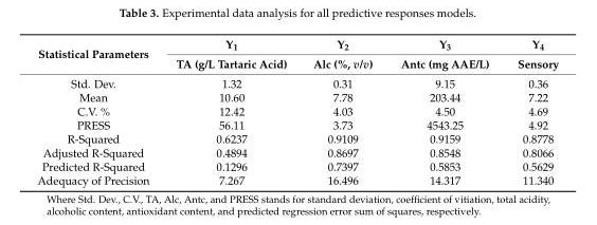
<table><thead><tr><td rowspan="2">Statistical Parameters</td><td rowspan="2">Y<sub>1</sub> TA (g/L Tartaric Acid)</td><td rowspan="2">Y<sub>2</sub> Alc (%, v/v)</td><td rowspan="2">Y<sub>3</sub> Antc (mg AAE/L)</td><td rowspan="2">Y<sub>4</sub> Sensory</td></tr><tr></tr></thead><tbody><tr><td>Std. Dev.</td><td>1.32</td><td>0.31</td><td>9.15</td><td>0.36</td></tr><tr><td>Mean</td><td>10.60</td><td>7.78</td><td>203.44</td><td>7.22</td></tr><tr><td>C.V. %</td><td>12.42</td><td>4.03</td><td>4.50</td><td>4.69</td></tr><tr><td>PRESS</td><td>56.11</td><td>3.73</td><td>4543.25</td><td>4.92</td></tr><tr><td>R-Squared</td><td>0.6237</td><td>0.9109</td><td>0.9159</td><td>0.8778</td></tr><tr><td>Adjusted R-Squared</td><td>0.4894</td><td>0.8697</td><td>0.8548</td><td>0.8066</td></tr><tr><td>Predicted R-Squared</td><td>0.1296</td><td>0.7397</td><td>0.5853</td><td>0.5629</td></tr><tr><td>Adequacy of Precision</td><td>7.267</td><td>16.496</td><td>14.317</td><td>11.340</td></tr></tbody></table>